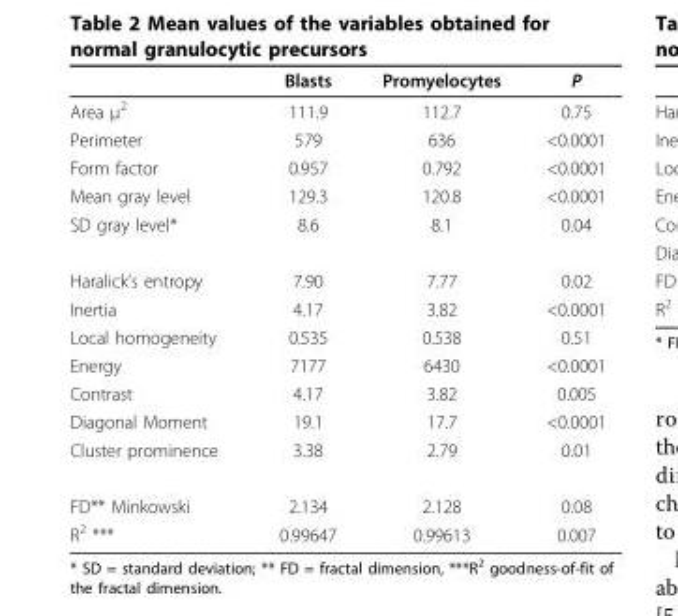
<table><thead><tr><td></td><td>Blasts</td><td>Promyelocytes</td><td>P</td></tr></thead><tbody><tr><td>Area μ<sup>2</sup></td><td>111.9</td><td>112.7</td><td>0.75</td></tr><tr><td>Perimeter</td><td>579</td><td>636</td><td>&lt;0.0001</td></tr><tr><td>Form factor</td><td>0.957</td><td>0.792</td><td>&lt;0.0001</td></tr><tr><td>Mean gray level</td><td>129.3</td><td>120.8</td><td>&lt;0.0001</td></tr><tr><td>SD gray level*</td><td>8.6</td><td>8.1</td><td>0.04</td></tr><tr><td>Haralick’s entropy</td><td>7.90</td><td>7.77</td><td>0.02</td></tr><tr><td>Inertia</td><td>4.17</td><td>3.82</td><td>&lt;0.0001</td></tr><tr><td>Local homogeneity</td><td>0.535</td><td>0.538</td><td>0.51</td></tr><tr><td>Energy</td><td>7177</td><td>6430</td><td>&lt;0.0001</td></tr><tr><td>Contrast</td><td>4.17</td><td>3.82</td><td>0.005</td></tr><tr><td>Diagonal Moment</td><td>19.1</td><td>17.7</td><td>&lt;0.0001</td></tr><tr><td>Cluster prominence</td><td>3.38</td><td>2.79</td><td>0.01</td></tr><tr><td>FD** Minkowski</td><td>2.134</td><td>2.128</td><td>0.08</td></tr><tr><td>R<sup>2</sup> ***</td><td>0.99647</td><td>0.99613</td><td>0.007</td></tr></tbody></table>